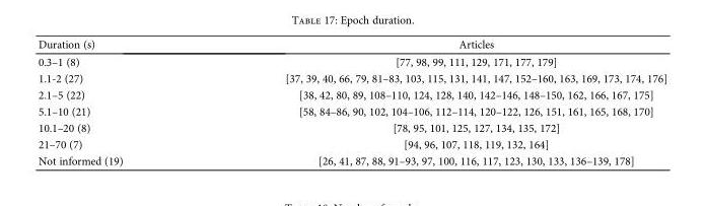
<table><thead><tr><td>Duration (s)</td><td>Articles</td></tr></thead><tbody><tr><td>0.3–1 (8)</td><td>[77, 98, 99, 111, 129, 171, 177, 179]</td></tr><tr><td>1.1-2 (27)</td><td>[37, 39, 40, 66, 79, 81–83, 103, 115, 131, 141, 147, 152–160, 163, 169, 173, 174, 176]</td></tr><tr><td>2.1–5 (22)</td><td>[38, 42, 80, 89, 108–110, 124, 128, 140, 142–146, 148–150, 162, 166, 167, 175]</td></tr><tr><td>5.1–10 (21)</td><td>[58, 84–86, 90, 102, 104–106, 112–114, 120–122, 126, 151, 161, 165, 168, 170]</td></tr><tr><td>10.1–20 (8)</td><td>[78, 95, 101, 125, 127, 134, 135, 172]</td></tr><tr><td>21–70 (7)</td><td>[94, 96, 107, 118, 119, 132, 164]</td></tr><tr><td>Not informed (19)</td><td>[26, 41, 87, 88, 91–93, 97, 100, 116, 117, 123, 130, 133, 136–139, 178]</td></tr></tbody></table>